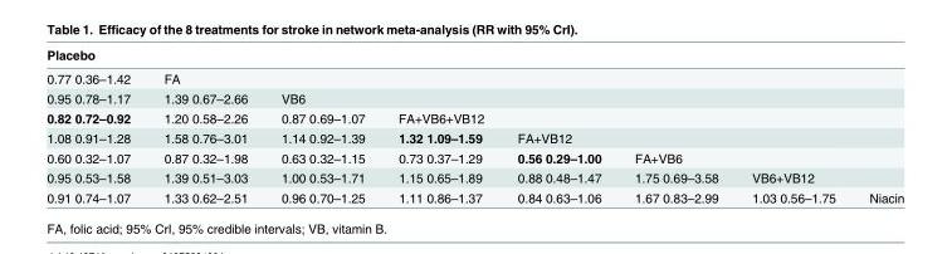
<table><thead><tr><td>Placebo</td><td></td><td></td><td></td><td></td><td></td><td></td><td></td></tr></thead><tbody><tr><td>0.77 0.36–1.42</td><td>FA</td><td></td><td></td><td></td><td></td><td></td><td></td></tr><tr><td>0.95 0.78–1.17</td><td>1.39 0.67–2.66</td><td>VB6</td><td></td><td></td><td></td><td></td><td></td></tr><tr><td>0.82 0.72–0.92</td><td>1.20 0.58–2.26</td><td>0.87 0.69–1.07</td><td>FA+VB6+VB12</td><td></td><td></td><td></td><td></td></tr><tr><td>1.08 0.91–1.28</td><td>1.58 0.76–3.01</td><td>1.14 0.92–1.39</td><td>1.32 1.09–1.59</td><td>FA+VB12</td><td></td><td></td><td></td></tr><tr><td>0.60 0.32–1.07</td><td>0.87 0.32–1.98</td><td>0.63 0.32–1.15</td><td>0.73 0.37–1.29</td><td>0.56 0.29–1.00</td><td>FA+VB6</td><td></td><td></td></tr><tr><td>0.95 0.53–1.58</td><td>1.39 0.51–3.03</td><td>1.00 0.53–1.71</td><td>1.15 0.65–1.89</td><td>0.88 0.48–1.47</td><td>1.75 0.69–3.58</td><td>VB6+VB12</td><td></td></tr><tr><td>0.91 0.74–1.07</td><td>1.33 0.62–2.51</td><td>0.96 0.70–1.25</td><td>1.11 0.86–1.37</td><td>0.84 0.63–1.06</td><td>1.67 0.83–2.99</td><td>1.03 0.56–1.75</td><td>Niacin</td></tr></tbody></table>